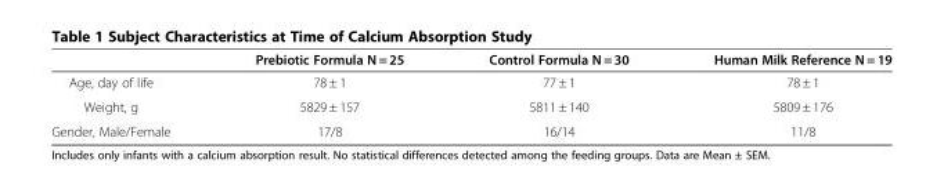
<table><thead><tr><td></td><td>Prebiotic Formula N = 25</td><td>Control Formula N = 30</td><td>Human Milk Reference N = 19</td></tr></thead><tbody><tr><td>Age, day of life</td><td>78 ± 1</td><td>77 ± 1</td><td>78 ± 1</td></tr><tr><td>Weight, g</td><td>5829 ± 157</td><td>5811 ± 140</td><td>5809 ± 176</td></tr><tr><td>Gender, Male/Female</td><td>17/8</td><td>16/14</td><td>11/8</td></tr></tbody></table>